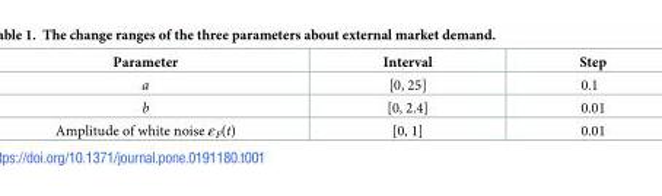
<table><thead><tr><td>Parameter</td><td>Interval</td><td>Step</td></tr></thead><tbody><tr><td>a</td><td>[0, 25]</td><td>0.1</td></tr><tr><td>b</td><td>[0, 2.4]</td><td>0.01</td></tr><tr><td>Amplitude of white noise ε<sub>F</sub>(t)</td><td>[0, 1]</td><td>0.01</td></tr></tbody></table>